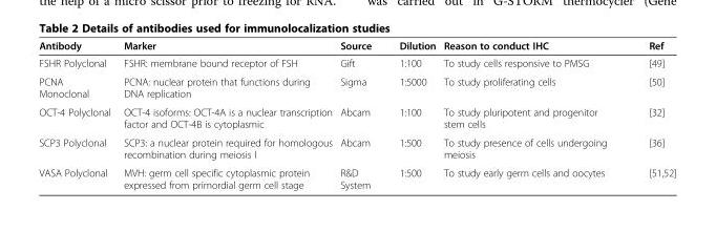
<table><thead><tr><td>Antibody</td><td>Marker</td><td>Source</td><td>Dilution</td><td>Reason to conduct IHC</td><td>Ref</td></tr></thead><tbody><tr><td>FSHR Polyclonal</td><td>FSHR: membrane bound receptor of FSH</td><td>Gift</td><td>1:100</td><td>To study cells responsive to PMSG</td><td>[49]</td></tr><tr><td>PCNA Monoclonal</td><td>PCNA: nuclear protein that functions during DNA replication</td><td>Sigma</td><td>1:5000</td><td>To study proliferating cells</td><td>[50]</td></tr><tr><td>OCT-4 Polyclonal</td><td>OCT-4 isoforms: OCT-4A is a nuclear transcription factor and OCT-4B is cytoplasmic</td><td>Abcam</td><td>1:100</td><td>To study pluripotent and progenitor stem cells</td><td>[32]</td></tr><tr><td>SCP3 Polyclonal</td><td>SCP3: a nuclear protein required for homologous recombination during meiosis I</td><td>Abcam</td><td>1:500</td><td>To study presence of cells undergoing meiosis</td><td>[36]</td></tr><tr><td>VASA Polyclonal</td><td>MVH: germ cell specific cytoplasmic protein expressed from primordial germ cell stage</td><td>R&amp;D System</td><td>1:500</td><td>To study early germ cells and oocytes</td><td>[51,52]</td></tr></tbody></table>